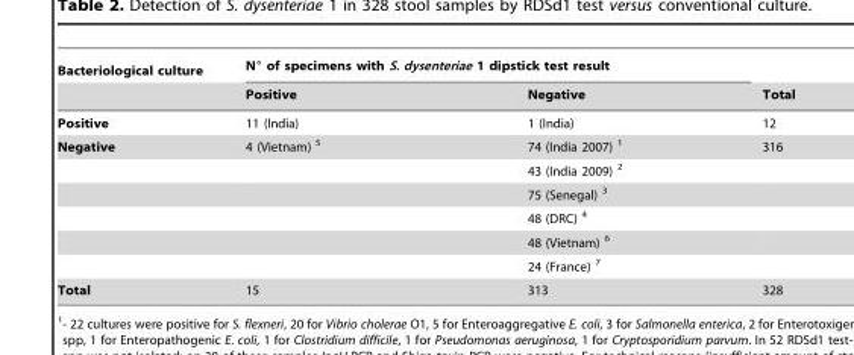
<table><thead><tr><td rowspan="2">Bacteriological culture</td><td colspan="2">N° of specimens with S. dysenteriae 1 dipstick test result</td><td rowspan="2">Total</td></tr><tr><td>Positive</td><td>Negative</td></tr></thead><tbody><tr><td>Positive</td><td>11 (India)</td><td>1 (India)</td><td>12</td></tr><tr><td rowspan="6">Negative</td><td>4 (Vietnam) 5</td><td>74 (India 2007) 1</td><td>316</td></tr><tr><td></td><td>43 (India 2009) 2</td><td></td></tr><tr><td></td><td>75 (Senegal) 3</td><td></td></tr><tr><td></td><td>48 (DRC) 4</td><td></td></tr><tr><td></td><td>48 (Vietnam) 6</td><td></td></tr><tr><td></td><td>24 (France) 7</td><td></td></tr><tr><td>Total</td><td>15</td><td>313</td><td>328</td></tr></tbody></table>